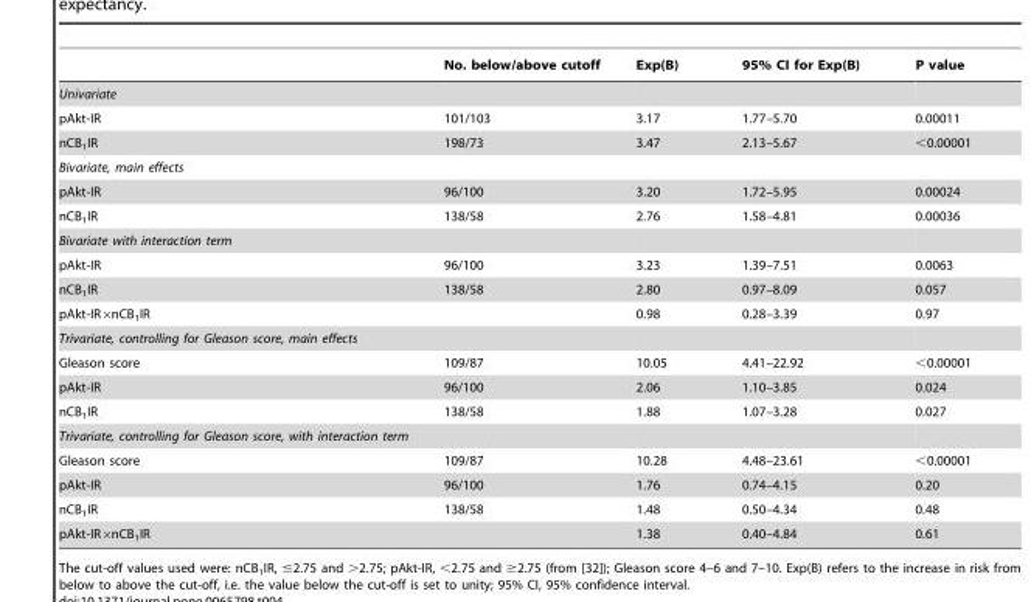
<table><thead><tr><td></td><td>No. below/above cutoff</td><td>Exp(B)</td><td>95% CI for Exp(B)</td><td>P value</td></tr></thead><tbody><tr><td colspan="5">Univariate</td></tr><tr><td>pAkt-IR</td><td>101/103</td><td>3.17</td><td>1.77–5.70</td><td>0.00011</td></tr><tr><td>nCB<sub>1</sub>IR</td><td>198/73</td><td>3.47</td><td>2.13–5.67</td><td>&lt;0.00001</td></tr><tr><td colspan="5">Bivariate, main effects</td></tr><tr><td>pAkt-IR</td><td>96/100</td><td>3.20</td><td>1.72–5.95</td><td>0.00024</td></tr><tr><td>nCB<sub>1</sub>IR</td><td>138/58</td><td>2.76</td><td>1.58–4.81</td><td>0.00036</td></tr><tr><td colspan="5">Bivariate with interaction term</td></tr><tr><td>pAkt-IR</td><td>96/100</td><td>3.23</td><td>1.39–7.51</td><td>0.0063</td></tr><tr><td>nCB<sub>1</sub>IR</td><td>138/58</td><td>2.80</td><td>0.97–8.09</td><td>0.057</td></tr><tr><td>pAkt-IR×nCB<sub>1</sub>IR</td><td></td><td>0.98</td><td>0.28–3.39</td><td>0.97</td></tr><tr><td colspan="5">Trivariate, controlling for Gleason score, main effects</td></tr><tr><td>Gleason score</td><td>109/87</td><td>10.05</td><td>4.41–22.92</td><td>&lt;0.00001</td></tr><tr><td>pAkt-IR</td><td>96/100</td><td>2.06</td><td>1.10–3.85</td><td>0.024</td></tr><tr><td>nCB<sub>1</sub>IR</td><td>138/58</td><td>1.88</td><td>1.07–3.28</td><td>0.027</td></tr><tr><td colspan="5">Trivariate, controlling for Gleason score, with interaction term</td></tr><tr><td>Gleason score</td><td>109/87</td><td>10.28</td><td>4.48–23.61</td><td>&lt;0.00001</td></tr><tr><td>pAkt-IR</td><td>96/100</td><td>1.76</td><td>0.74–4.15</td><td>0.20</td></tr><tr><td>nCB<sub>1</sub>IR</td><td>138/58</td><td>1.48</td><td>0.50–4.34</td><td>0.48</td></tr><tr><td>pAkt-IR×nCB<sub>1</sub>IR</td><td></td><td>1.38</td><td>0.40–4.84</td><td>0.61</td></tr></tbody></table>